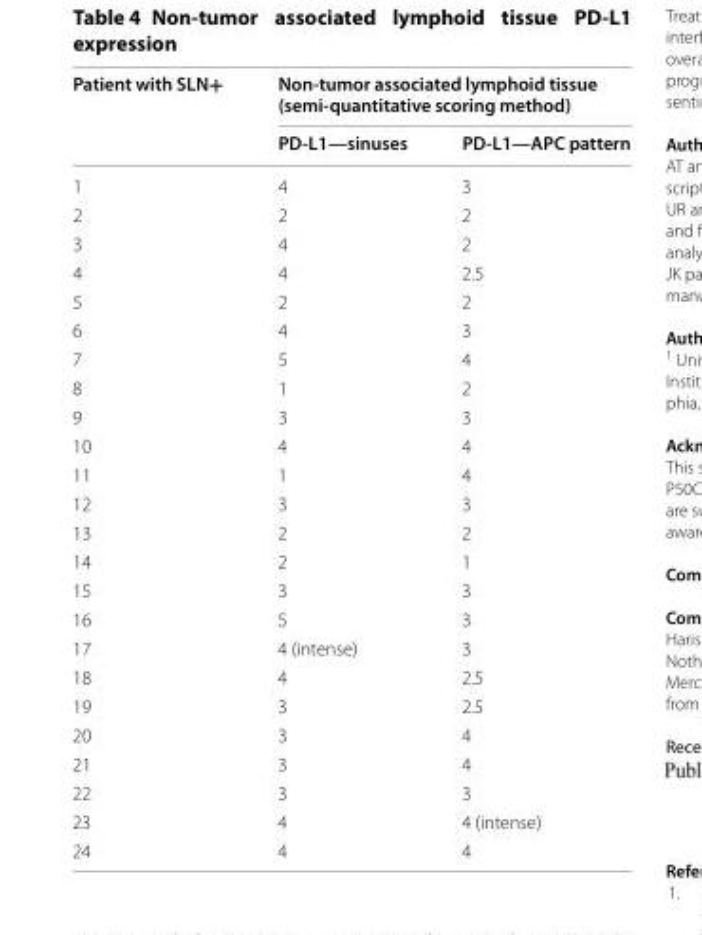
<table><thead><tr><td rowspan="2">Patient with SLN+</td><td colspan="2">Non-tumor associated lymphoid tissue (semi-quantitative scoring method)</td></tr><tr><td>PD-L1—sinuses</td><td>PD-L1—APC pattern</td></tr></thead><tbody><tr><td>1</td><td>4</td><td>3</td></tr><tr><td>2</td><td>2</td><td>2</td></tr><tr><td>3</td><td>4</td><td>2</td></tr><tr><td>4</td><td>4</td><td>2.5</td></tr><tr><td>5</td><td>2</td><td>2</td></tr><tr><td>6</td><td>4</td><td>3</td></tr><tr><td>7</td><td>5</td><td>4</td></tr><tr><td>8</td><td>1</td><td>2</td></tr><tr><td>9</td><td>3</td><td>3</td></tr><tr><td>10</td><td>4</td><td>4</td></tr><tr><td>11</td><td>1</td><td>4</td></tr><tr><td>12</td><td>3</td><td>3</td></tr><tr><td>13</td><td>2</td><td>2</td></tr><tr><td>14</td><td>2</td><td>1</td></tr><tr><td>15</td><td>3</td><td>3</td></tr><tr><td>16</td><td>5</td><td>3</td></tr><tr><td>17</td><td>4 (intense)</td><td>3</td></tr><tr><td>18</td><td>4</td><td>2.5</td></tr><tr><td>19</td><td>3</td><td>2.5</td></tr><tr><td>20</td><td>3</td><td>4</td></tr><tr><td>21</td><td>3</td><td>4</td></tr><tr><td>22</td><td>3</td><td>3</td></tr><tr><td>23</td><td>4</td><td>4 (intense)</td></tr><tr><td>24</td><td>4</td><td>4</td></tr></tbody></table>